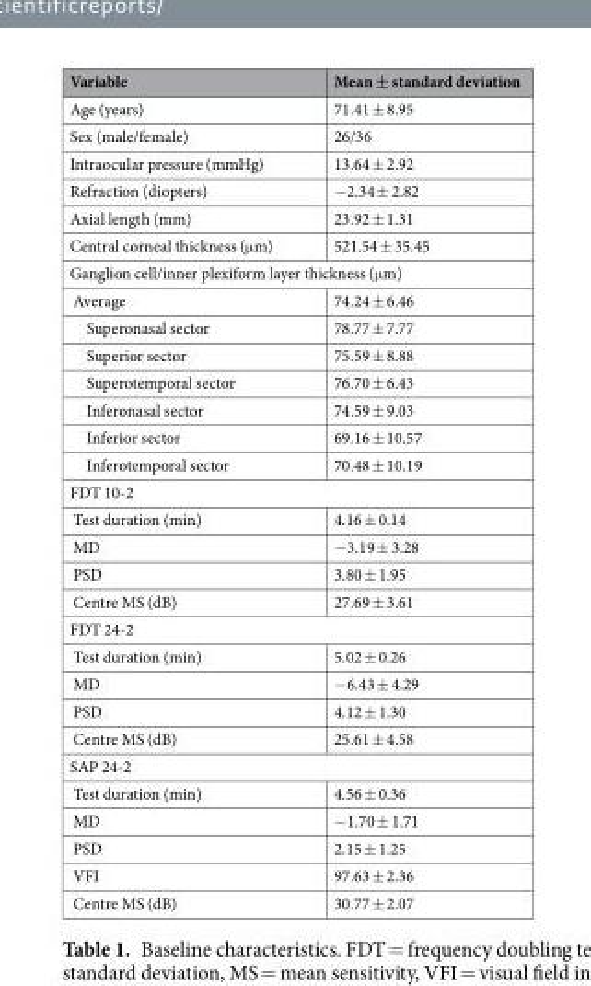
<table><thead><tr><td>Variable</td><td>Mean ± standard deviation</td></tr></thead><tbody><tr><td>Age (years)</td><td>71.41 ± 8.95</td></tr><tr><td>Sex (male/female)</td><td>26/36</td></tr><tr><td>Intraocular pressure (mmHg)</td><td>13.64 ± 2.92</td></tr><tr><td>Refraction (diopters)</td><td>−2.34 ± 2.82</td></tr><tr><td>Axial length (mm)</td><td>23.92 ± 1.31</td></tr><tr><td>Central corneal thickness (μm)</td><td>521.54 ± 35.45</td></tr><tr><td colspan="2">Ganglion cell/inner plexiform layer thickness (μm)</td></tr><tr><td>Average</td><td>74.24 ± 6.46</td></tr><tr><td>Superonasal sector</td><td>78.77 ± 7.77</td></tr><tr><td>Superior sector</td><td>75.59 ± 8.88</td></tr><tr><td>Superotemporal sector</td><td>76.70 ± 6.43</td></tr><tr><td>Inferonasal sector</td><td>74.59 ± 9.03</td></tr><tr><td>Inferior sector</td><td>69.16 ± 10.57</td></tr><tr><td>Inferotemporal sector</td><td>70.48 ± 10.19</td></tr><tr><td colspan="2">FDT 10-2</td></tr><tr><td>Test duration (min)</td><td>4.16 ± 0.14</td></tr><tr><td>MD</td><td>−3.19 ± 3.28</td></tr><tr><td>PSD</td><td>3.80 ± 1.95</td></tr><tr><td>Centre MS (dB)</td><td>27.69 ± 3.61</td></tr><tr><td colspan="2">FDT 24-2</td></tr><tr><td>Test duration (min)</td><td>5.02 ± 0.26</td></tr><tr><td>MD</td><td>−6.43 ± 4.29</td></tr><tr><td>PSD</td><td>4.12 ± 1.30</td></tr><tr><td>Centre MS (dB)</td><td>25.61 ± 4.58</td></tr><tr><td colspan="2">SAP 24-2</td></tr><tr><td>Test duration (min)</td><td>4.56 ± 0.36</td></tr><tr><td>MD</td><td>−1.70 ± 1.71</td></tr><tr><td>PSD</td><td>2.15 ± 1.25</td></tr><tr><td>VFI</td><td>97.63 ± 2.36</td></tr><tr><td>Centre MS (dB)</td><td>30.77 ± 2.07</td></tr></tbody></table>